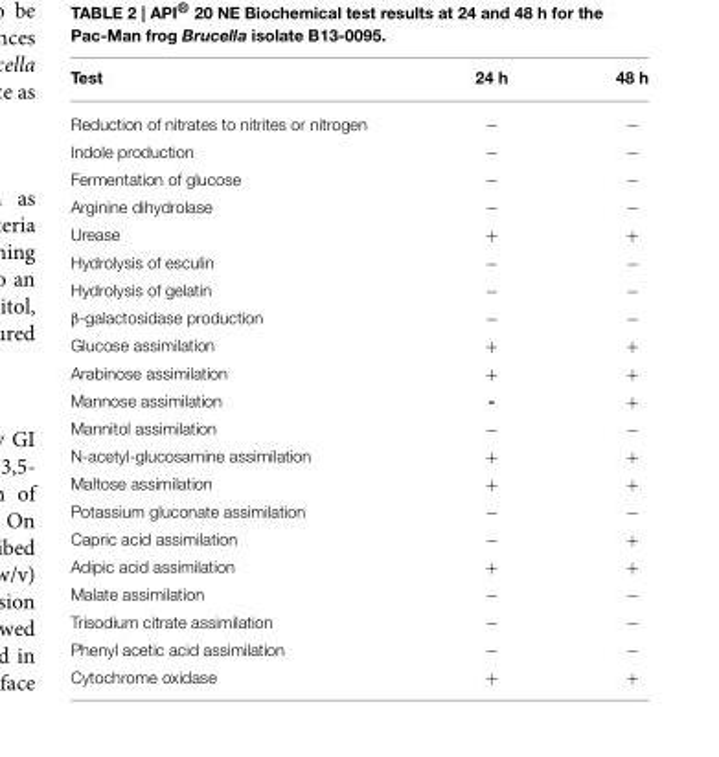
<table><thead><tr><td>Test</td><td>24 h</td><td>48 h</td></tr></thead><tbody><tr><td>Reduction of nitrates to nitrites or nitrogen</td><td>−</td><td>−</td></tr><tr><td>Indole production</td><td>−</td><td>−</td></tr><tr><td>Fermentation of glucose</td><td>−</td><td>−</td></tr><tr><td>Arginine dihydrolase</td><td>−</td><td>−</td></tr><tr><td>Urease</td><td>+</td><td>+</td></tr><tr><td>Hydrolysis of esculin</td><td>−</td><td>−</td></tr><tr><td>Hydrolysis of gelatin</td><td>−</td><td>−</td></tr><tr><td>β-galactosidase production</td><td>−</td><td>−</td></tr><tr><td>Glucose assimilation</td><td>+</td><td>+</td></tr><tr><td>Arabinose assimilation</td><td>+</td><td>+</td></tr><tr><td>Mannose assimilation</td><td>-</td><td>+</td></tr><tr><td>Mannitol assimilation</td><td>−</td><td>−</td></tr><tr><td>N-acetyl-glucosamine assimilation</td><td>+</td><td>+</td></tr><tr><td>Maltose assimilation</td><td>+</td><td>+</td></tr><tr><td>Potassium gluconate assimilation</td><td>−</td><td>−</td></tr><tr><td>Capric acid assimilation</td><td>−</td><td>+</td></tr><tr><td>Adipic acid assimilation</td><td>+</td><td>+</td></tr><tr><td>Malate assimilation</td><td>−</td><td>−</td></tr><tr><td>Trisodium citrate assimilation</td><td>−</td><td>−</td></tr><tr><td>Phenyl acetic acid assimilation</td><td>−</td><td>−</td></tr><tr><td>Cytochrome oxidase</td><td>+</td><td>+</td></tr></tbody></table>